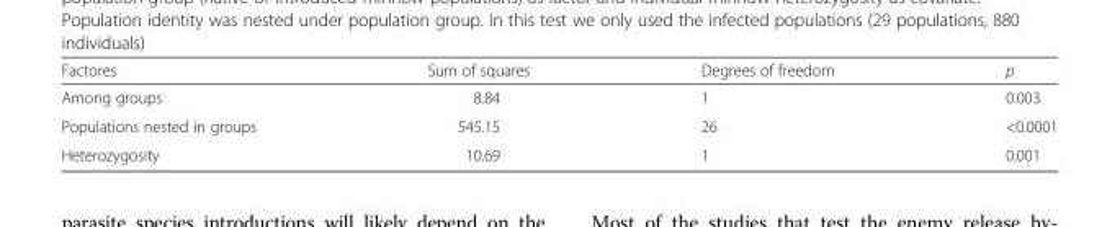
<table><thead><tr><td>Factores</td><td>Sum of squares</td><td>Degrees of freedom</td><td>p</td></tr></thead><tbody><tr><td>Among groups</td><td>8.84</td><td>1</td><td>0.003</td></tr><tr><td>Populations nested in groups</td><td>545.15</td><td>26</td><td>&lt;0.0001</td></tr><tr><td>Heterozygosity</td><td>10.69</td><td>1</td><td>0.001</td></tr></tbody></table>